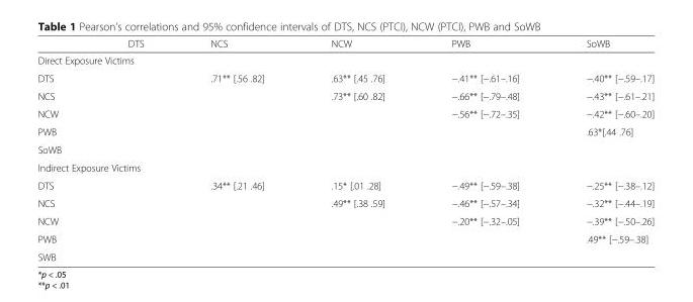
<table><thead><tr><td></td><td>DTS</td><td>NCS</td><td>NCW</td><td>PWB</td><td>SoWB</td></tr></thead><tbody><tr><td colspan="6">Direct Exposure Victims</td></tr><tr><td>DTS</td><td></td><td>.71** [.56 .82]</td><td>.63** [.45 .76]</td><td>−.41** [−.61–.16]</td><td>−.40** [−.59–.17]</td></tr><tr><td>NCS</td><td></td><td></td><td>.73** [.60 .82]</td><td>−.66** [−.79–.48]</td><td>−.43** [−.61–.21]</td></tr><tr><td>NCW</td><td></td><td></td><td></td><td>−.56** [−.72–.35]</td><td>−.42** [−.60–.20]</td></tr><tr><td>PWB</td><td></td><td></td><td></td><td></td><td>.63*[.44 .76]</td></tr><tr><td colspan="6">SoWB</td></tr><tr><td colspan="6">Indirect Exposure Victims</td></tr><tr><td>DTS</td><td></td><td>.34** [.21 .46]</td><td>.15* [.01 .28]</td><td>−.49** [−.59–.38]</td><td>−.25** [−.38–.12]</td></tr><tr><td>NCS</td><td></td><td></td><td>.49** [.38 .59]</td><td>−.46** [−.57–.34]</td><td>−.32** [−.44–.19]</td></tr><tr><td>NCW</td><td></td><td></td><td></td><td>−.20** [−.32–.05]</td><td>−.39** [−.50–.26]</td></tr><tr><td>PWB</td><td></td><td></td><td></td><td></td><td>.49** [−.59–.38]</td></tr><tr><td>SWB</td><td></td><td></td><td></td><td></td><td></td></tr></tbody></table>